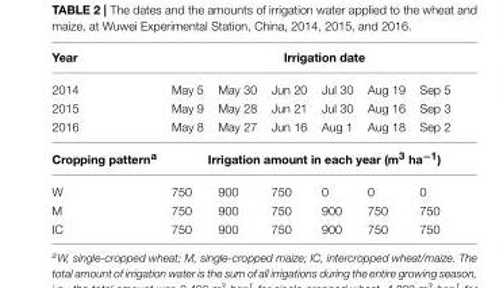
<table><thead><tr><td rowspan="2">Year 2014</td><td colspan="6">Irrigation date</td></tr><tr><td>May 5</td><td>May 30</td><td>Jun 20</td><td>Jul 30</td><td>Aug 19</td><td>Sep 5</td></tr></thead><tbody><tr><td>2015</td><td>May 9</td><td>May 28</td><td>Jun 21</td><td>Jul 30</td><td>Aug 16</td><td>Sep 3</td></tr><tr><td>2016</td><td>May 8</td><td>May 27</td><td>Jun 16</td><td>Aug 1</td><td>Aug 18</td><td>Sep 2</td></tr><tr><td>Cropping pattern<sup>a</sup></td><td colspan="6">Irrigation amount in each year (m<sup>3</sup> ha<sup>−1</sup>)</td></tr><tr><td>W</td><td>750</td><td>900</td><td>750</td><td>0</td><td>0</td><td>0</td></tr><tr><td>M</td><td>750</td><td>900</td><td>750</td><td>900</td><td>750</td><td>750</td></tr><tr><td>IC</td><td>750</td><td>900</td><td>750</td><td>900</td><td>750</td><td>750</td></tr></tbody></table>